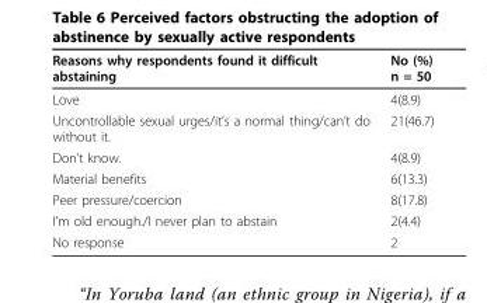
<table><thead><tr><td>Reasons why respondents found it difficult abstaining</td><td>No (%) n = 50</td></tr></thead><tbody><tr><td>Love</td><td>4(8.9)</td></tr><tr><td>Uncontrollable sexual urges/it’s a normal thing/can’t do without it.</td><td>21(46.7)</td></tr><tr><td>Don’t know.</td><td>4(8.9)</td></tr><tr><td>Material benefits</td><td>6(13.3)</td></tr><tr><td>Peer pressure/coercion</td><td>8(17.8)</td></tr><tr><td>I’m old enough./I never plan to abstain</td><td>2(4.4)</td></tr><tr><td>No response</td><td>2</td></tr></tbody></table>